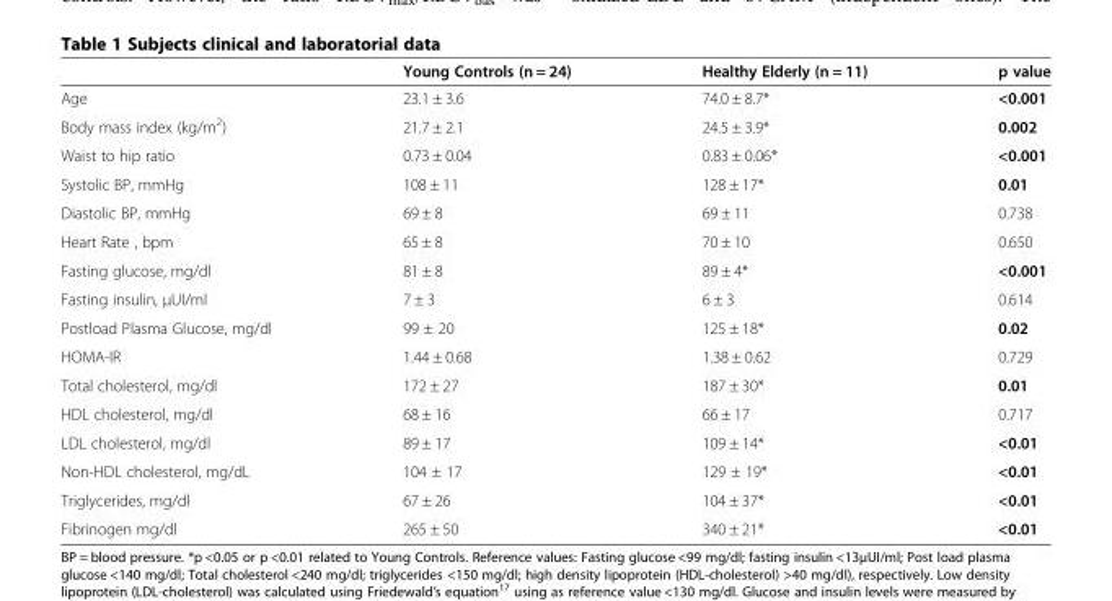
<table><thead><tr><td></td><td>Young Controls (n = 24)</td><td>Healthy Elderly (n = 11)</td><td>p value</td></tr></thead><tbody><tr><td>Age</td><td>23.1 ± 3.6</td><td>74.0 ± 8.7*</td><td>&lt;0.001</td></tr><tr><td>Body mass index (kg/m<sup>2</sup>)</td><td>21.7 ± 2.1</td><td>24.5 ± 3.9*</td><td>0.002</td></tr><tr><td>Waist to hip ratio</td><td>0.73 ± 0.04</td><td>0.83 ± 0.06*</td><td>&lt;0.001</td></tr><tr><td>Systolic BP, mmHg</td><td>108 ± 11</td><td>128 ± 17*</td><td>0.01</td></tr><tr><td>Diastolic BP, mmHg</td><td>69 ± 8</td><td>69 ± 11</td><td>0.738</td></tr><tr><td>Heart Rate , bpm</td><td>65 ± 8</td><td>70 ± 10</td><td>0.650</td></tr><tr><td>Fasting glucose, mg/dl</td><td>81 ± 8</td><td>89 ± 4*</td><td>&lt;0.001</td></tr><tr><td>Fasting insulin, μUI/ml</td><td>7 ± 3</td><td>6 ± 3</td><td>0.614</td></tr><tr><td>Postload Plasma Glucose, mg/dl</td><td>99 ± 20</td><td>125 ± 18*</td><td>0.02</td></tr><tr><td>HOMA-IR</td><td>1.44 ± 0.68</td><td>1.38 ± 0.62</td><td>0.729</td></tr><tr><td>Total cholesterol, mg/dl</td><td>172 ± 27</td><td>187 ± 30*</td><td>0.01</td></tr><tr><td>HDL cholesterol, mg/dl</td><td>68 ± 16</td><td>66 ± 17</td><td>0.717</td></tr><tr><td>LDL cholesterol, mg/dl</td><td>89 ± 17</td><td>109 ± 14*</td><td>&lt;0.01</td></tr><tr><td>Non-HDL cholesterol, mg/dL</td><td>104 ± 17</td><td>129 ± 19*</td><td>&lt;0.01</td></tr><tr><td>Triglycerides, mg/dl</td><td>67 ± 26</td><td>104 ± 37*</td><td>&lt;0.01</td></tr><tr><td>Fibrinogen mg/dl</td><td>265 ± 50</td><td>340 ± 21*</td><td>&lt;0.01</td></tr></tbody></table>